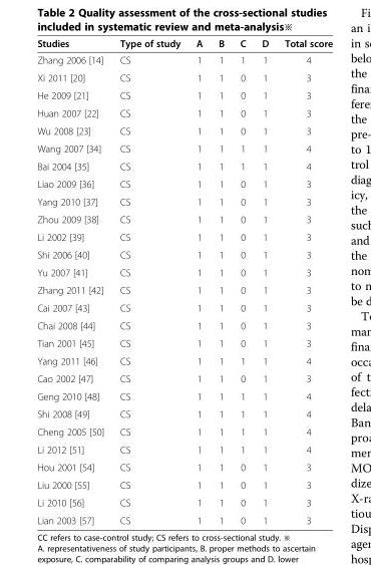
<table><thead><tr><td>Studies</td><td>Type of study</td><td>A</td><td>B</td><td>C</td><td>D</td><td>Total score</td></tr></thead><tbody><tr><td>Zhang 2006 [14]</td><td>CS</td><td>1</td><td>1</td><td>1</td><td>1</td><td>4</td></tr><tr><td>Xi 2011 [20]</td><td>CS</td><td>1</td><td>1</td><td>0</td><td>1</td><td>3</td></tr><tr><td>He 2009 [21]</td><td>CS</td><td>1</td><td>1</td><td>0</td><td>1</td><td>3</td></tr><tr><td>Huan 2007 [22]</td><td>CS</td><td>1</td><td>1</td><td>0</td><td>1</td><td>3</td></tr><tr><td>Wu 2008 [23]</td><td>CS</td><td>1</td><td>1</td><td>0</td><td>1</td><td>3</td></tr><tr><td>Wang 2007 [34]</td><td>CS</td><td>1</td><td>1</td><td>1</td><td>1</td><td>4</td></tr><tr><td>Bai 2004 [35]</td><td>CS</td><td>1</td><td>1</td><td>1</td><td>1</td><td>4</td></tr><tr><td>Liao 2009 [36]</td><td>CS</td><td>1</td><td>1</td><td>0</td><td>1</td><td>3</td></tr><tr><td>Yang 2010 [37]</td><td>CS</td><td>1</td><td>1</td><td>0</td><td>1</td><td>3</td></tr><tr><td>Zhou 2009 [38]</td><td>CS</td><td>1</td><td>1</td><td>0</td><td>1</td><td>3</td></tr><tr><td>Li 2002 [39]</td><td>CS</td><td>1</td><td>1</td><td>0</td><td>1</td><td>3</td></tr><tr><td>Shi 2006 [40]</td><td>CS</td><td>1</td><td>1</td><td>0</td><td>1</td><td>3</td></tr><tr><td>Yu 2007 [41]</td><td>CS</td><td>1</td><td>1</td><td>0</td><td>1</td><td>3</td></tr><tr><td>Zhang 2011 [42]</td><td>CS</td><td>1</td><td>1</td><td>0</td><td>1</td><td>3</td></tr><tr><td>Cai 2007 [43]</td><td>CS</td><td>1</td><td>1</td><td>0</td><td>1</td><td>3</td></tr><tr><td>Chai 2008 [44]</td><td>CS</td><td>1</td><td>1</td><td>0</td><td>1</td><td>3</td></tr><tr><td>Tian 2001 [45]</td><td>CS</td><td>1</td><td>1</td><td>0</td><td>1</td><td>3</td></tr><tr><td>Yang 2011 [46]</td><td>CS</td><td>1</td><td>1</td><td>1</td><td>1</td><td>4</td></tr><tr><td>Cao 2002 [47]</td><td>CS</td><td>1</td><td>1</td><td>0</td><td>1</td><td>3</td></tr><tr><td>Geng 2010 [48]</td><td>CS</td><td>1</td><td>1</td><td>1</td><td>1</td><td>4</td></tr><tr><td>Shi 2008 [49]</td><td>CS</td><td>1</td><td>1</td><td>1</td><td>1</td><td>4</td></tr><tr><td>Cheng 2005 [50]</td><td>CS</td><td>1</td><td>1</td><td>1</td><td>1</td><td>4</td></tr><tr><td>Li 2012 [51]</td><td>CS</td><td>1</td><td>1</td><td>1</td><td>1</td><td>4</td></tr><tr><td>Hou 2001 [54]</td><td>CS</td><td>1</td><td>1</td><td>0</td><td>1</td><td>3</td></tr><tr><td>Liu 2000 [55]</td><td>CS</td><td>1</td><td>1</td><td>0</td><td>1</td><td>3</td></tr><tr><td>Li 2010 [56]</td><td>CS</td><td>1</td><td>1</td><td>0</td><td>1</td><td>3</td></tr><tr><td>Lian 2003 [57]</td><td>CS</td><td>1</td><td>1</td><td>0</td><td>1</td><td>3</td></tr></tbody></table>